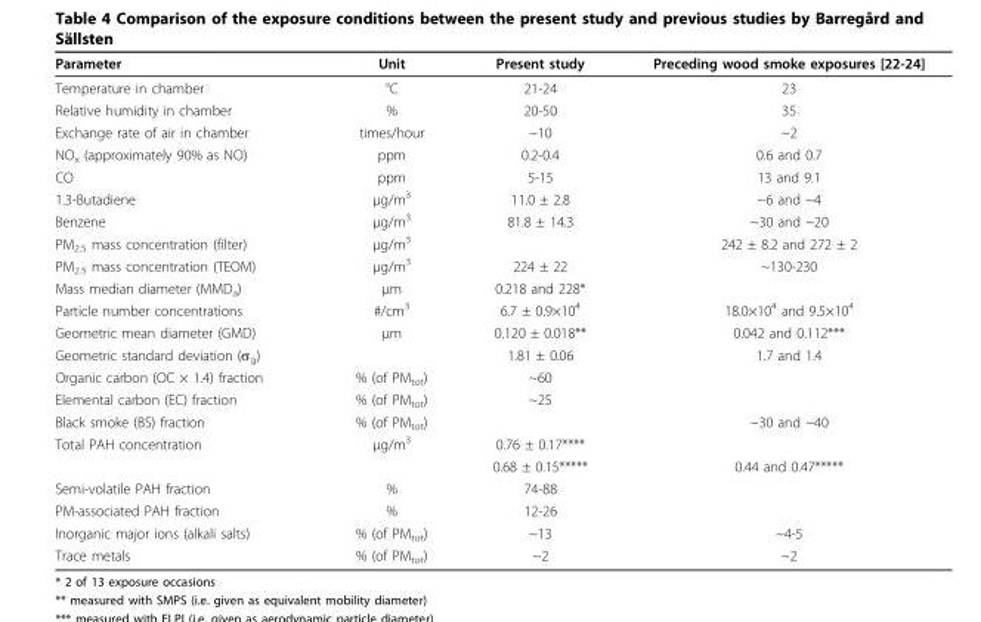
<table><thead><tr><td>Parameter</td><td>Unit</td><td>Present study</td><td>Preceding wood smoke exposures [22-24]</td></tr></thead><tbody><tr><td>Temperature in chamber</td><td>°C</td><td>21-24</td><td>23</td></tr><tr><td>Relative humidity in chamber</td><td>%</td><td>20-50</td><td>35</td></tr><tr><td>Exchange rate of air in chamber</td><td>times/hour</td><td>~10</td><td>~2</td></tr><tr><td>NO<sub>x</sub> (approximately 90% as NO)</td><td>ppm</td><td>0.2-0.4</td><td>0.6 and 0.7</td></tr><tr><td>CO</td><td>ppm</td><td>5-15</td><td>13 and 9.1</td></tr><tr><td>1.3-Butadiene</td><td>μg/m<sup>3</sup></td><td>11.0 ± 2.8</td><td>~6 and ~4</td></tr><tr><td>Benzene</td><td>μg/m<sup>3</sup></td><td>81.8 ± 14.3</td><td>~30 and ~20</td></tr><tr><td>PM<sub>2.5</sub> mass concentration (filter)</td><td>μg/m<sup>3</sup></td><td></td><td>242 ± 8.2 and 272 ± 2</td></tr><tr><td>PM<sub>2.5</sub> mass concentration (TEOM)</td><td>μg/m<sup>3</sup></td><td>224 ± 22</td><td>~130-230</td></tr><tr><td>Mass median diameter (MMD<sub>a</sub>)</td><td>μm</td><td>0.218 and 228*</td><td></td></tr><tr><td>Particle number concentrations</td><td>#/cm<sup>3</sup></td><td>6.7 ± 0.9×10<sup>4</sup></td><td>18.0×10<sup>4</sup> and 9.5×10<sup>4</sup></td></tr><tr><td>Geometric mean diameter (GMD)</td><td>μm</td><td>0.120 ± 0.018**</td><td>0.042 and 0.112***</td></tr><tr><td>Geometric standard deviation (σ<sub>g</sub>)</td><td></td><td>1.81 ± 0.06</td><td>1.7 and 1.4</td></tr><tr><td>Organic carbon (OC × 1.4) fraction</td><td>% (of PM<sub>tot</sub>)</td><td>~60</td><td></td></tr><tr><td>Elemental carbon (EC) fraction</td><td>% (of PM<sub>tot</sub>)</td><td>~25</td><td></td></tr><tr><td>Black smoke (BS) fraction</td><td>% (of PM<sub>tot</sub>)</td><td></td><td>~30 and ~40</td></tr><tr><td rowspan="2">Total PAH concentration</td><td>μg/m<sup>3</sup></td><td>0.76 ± 0.17****</td><td></td></tr><tr><td></td><td>0.68 ± 0.15*****</td><td>0.44 and 0.47*****</td></tr><tr><td>Semi-volatile PAH fraction</td><td>%</td><td>74-88</td><td></td></tr><tr><td>PM-associated PAH fraction</td><td>%</td><td>12-26</td><td></td></tr><tr><td>Inorganic major ions (alkali salts)</td><td>% (of PM<sub>tot</sub>)</td><td>~13</td><td>~4-5</td></tr><tr><td>Trace metals</td><td>% (of PM<sub>tot</sub>)</td><td>~2</td><td>~2</td></tr></tbody></table>